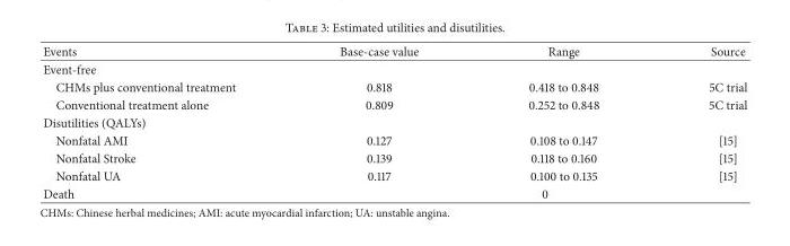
<table><thead><tr><td>Events</td><td>Base-case value</td><td>Range</td><td>Source</td></tr></thead><tbody><tr><td colspan="4">Event-free</td></tr><tr><td>CHMs plus conventional treatment</td><td>0.818</td><td>0.418 to 0.848</td><td>5C trial</td></tr><tr><td>Conventional treatment alone</td><td>0.809</td><td>0.252 to 0.848</td><td>5C trial</td></tr><tr><td colspan="4">Disutilities (QALYs)</td></tr><tr><td>Nonfatal AMI</td><td>0.127</td><td>0.108 to 0.147</td><td>[15]</td></tr><tr><td>Nonfatal Stroke</td><td>0.139</td><td>0.118 to 0.160</td><td>[15]</td></tr><tr><td>Nonfatal UA</td><td>0.117</td><td>0.100 to 0.135</td><td>[15]</td></tr><tr><td>Death</td><td colspan="3">0</td></tr></tbody></table>